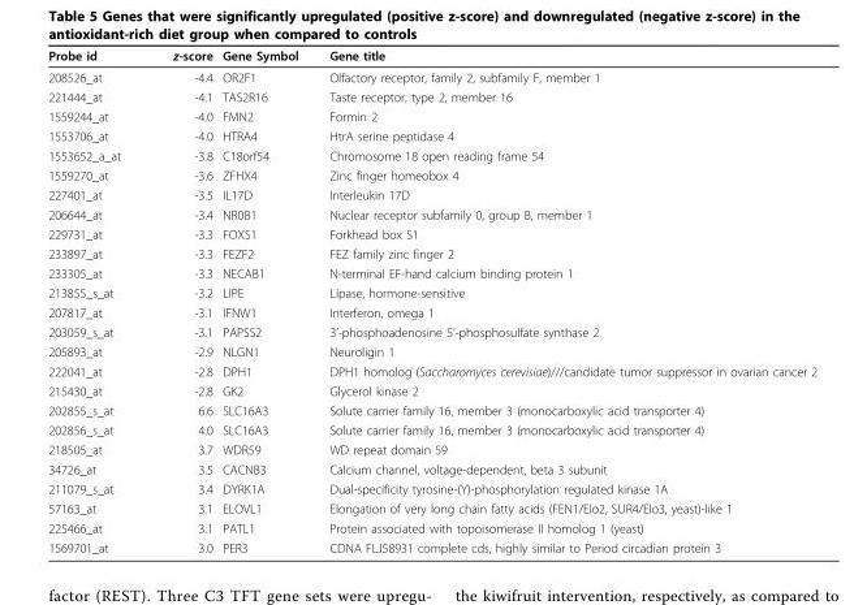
<table><thead><tr><td>Probe id</td><td>z-score</td><td>Gene Symbol</td><td>Gene title</td></tr></thead><tbody><tr><td>208526_at</td><td>-4.4</td><td>OR2F1</td><td>Olfactory receptor, family 2, subfamily F, member 1</td></tr><tr><td>221444_at</td><td>-4.1</td><td>TAS2R16</td><td>Taste receptor, type 2, member 16</td></tr><tr><td>1559244_at</td><td>-4.0</td><td>FMN2</td><td>Formin 2</td></tr><tr><td>1553706_at</td><td>-4.0</td><td>HTRA4</td><td>HtrA serine peptidase 4</td></tr><tr><td>1553652_a_at</td><td>-3.8</td><td>C18orf54</td><td>Chromosome 18 open reading frame 54</td></tr><tr><td>1559270_at</td><td>-3.6</td><td>ZFHX4</td><td>Zinc finger homeobox 4</td></tr><tr><td>227401_at</td><td>-3.5</td><td>IL17D</td><td>Interleukin 17D</td></tr><tr><td>206644_at</td><td>-3.4</td><td>NR0B1</td><td>Nuclear receptor subfamily 0, group B, member 1</td></tr><tr><td>229731_at</td><td>-3.3</td><td>FOXS1</td><td>Forkhead box S1</td></tr><tr><td>233897_at</td><td>-3.3</td><td>FEZF2</td><td>FEZ family zinc finger 2</td></tr><tr><td>233305_at</td><td>-3.3</td><td>NECAB1</td><td>N-terminal EF-hand calcium binding protein 1</td></tr><tr><td>213855_s_at</td><td>-3.2</td><td>LIPE</td><td>Lipase, hormone-sensitive</td></tr><tr><td>207817_at</td><td>-3.1</td><td>IFNW1</td><td>Interferon, omega 1</td></tr><tr><td>203059_s_at</td><td>-3.1</td><td>PAPSS2</td><td>3’-phosphoadenosine 5’-phosphosulfate synthase 2</td></tr><tr><td>205893_at</td><td>-2.9</td><td>NLGN1</td><td>Neuroligin 1</td></tr><tr><td>222041_at</td><td>-2.8</td><td>DPH1</td><td>DPH1 homolog (Saccharomyces cerevisiae)///candidate tumor suppressor in ovarian cancer 2</td></tr><tr><td>215430_at</td><td>-2.8</td><td>GK2</td><td>Glycerol kinase 2</td></tr><tr><td>202855_s_at</td><td>6.6</td><td>SLC16A3</td><td>Solute carrier family 16, member 3 (monocarboxylic acid transporter 4)</td></tr><tr><td>202856_s_at</td><td>4.0</td><td>SLC16A3</td><td>Solute carrier family 16, member 3 (monocarboxylic acid transporter 4)</td></tr><tr><td>218505_at</td><td>3.7</td><td>WDR59</td><td>WD repeat domain 59</td></tr><tr><td>34726_at</td><td>3.5</td><td>CACNB3</td><td>Calcium channel, voltage-dependent, beta 3 subunit</td></tr><tr><td>211079_s_at</td><td>3.4</td><td>DYRK1A</td><td>Dual-specificity tyrosine-(Y)-phosphorylation regulated kinase 1A</td></tr><tr><td>57163_at</td><td>3.1</td><td>ELOVL1</td><td>Elongation of very long chain fatty acids (FEN1/Elo2, SUR4/Elo3, yeast)-like 1</td></tr><tr><td>225466_at</td><td>3.1</td><td>PATL1</td><td>Protein associated with topoisomerase II homolog 1 (yeast)</td></tr><tr><td>1569701_at</td><td>3.0</td><td>PER3</td><td>CDNA FLJ58931 complete cds, highly similar to Period circadian protein 3</td></tr></tbody></table>